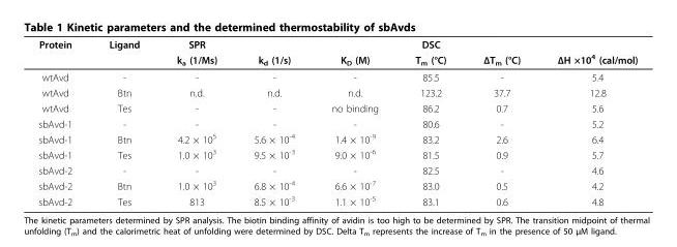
<table><thead><tr><td rowspan="2">Protein</td><td rowspan="2">Ligand</td><td rowspan="2">SPR k<sub>a</sub> (1/Ms)</td><td rowspan="2">k<sub>d</sub> (1/s)</td><td rowspan="2">K<sub>D</sub> (M)</td><td rowspan="2">DSC T<sub>m</sub> (°C)</td><td rowspan="2">ΔT<sub>m</sub> (°C)</td><td rowspan="2">ΔH ×10<sup>4</sup> (cal/mol)</td></tr><tr></tr></thead><tbody><tr><td>wtAvd</td><td>-</td><td>-</td><td>-</td><td>-</td><td>85.5</td><td>-</td><td>5.4</td></tr><tr><td>wtAvd</td><td>Btn</td><td>n.d.</td><td>n.d.</td><td>n.d.</td><td>123.2</td><td>37.7</td><td>12.8</td></tr><tr><td>wtAvd</td><td>Tes</td><td>-</td><td>-</td><td>no binding</td><td>86.2</td><td>0.7</td><td>5.6</td></tr><tr><td>sbAvd-1</td><td>-</td><td>-</td><td>-</td><td>-</td><td>80.6</td><td>-</td><td>5.2</td></tr><tr><td>sbAvd-1</td><td>Btn</td><td>4.2 × 10<sup>5</sup></td><td>5.6 × 10<sup>-4</sup></td><td>1.4 × 10<sup>-9</sup></td><td>83.2</td><td>2.6</td><td>6.4</td></tr><tr><td>sbAvd-1</td><td>Tes</td><td>1.0 × 10<sup>3</sup></td><td>9.5 × 10<sup>-3</sup></td><td>9.0 × 10<sup>-6</sup></td><td>81.5</td><td>0.9</td><td>5.7</td></tr><tr><td>sbAvd-2</td><td>-</td><td>-</td><td>-</td><td>-</td><td>82.5</td><td>-</td><td>4.6</td></tr><tr><td>sbAvd-2</td><td>Btn</td><td>1.0 × 10<sup>3</sup></td><td>6.8 × 10<sup>-4</sup></td><td>6.6 × 10<sup>-7</sup></td><td>83.0</td><td>0.5</td><td>4.2</td></tr><tr><td>sbAvd-2</td><td>Tes</td><td>813</td><td>8.5 × 10<sup>-3</sup></td><td>1.1 × 10<sup>-5</sup></td><td>83.1</td><td>0.6</td><td>4.8</td></tr></tbody></table>